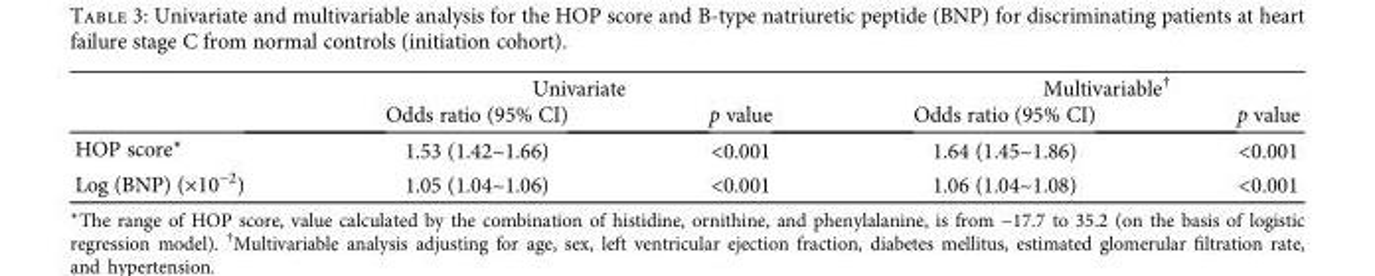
<table><thead><tr><td rowspan="2"></td><td colspan="2">Univariate</td><td colspan="2">Multivariable<sup>†</sup></td></tr><tr><td>Odds ratio (95% CI)</td><td>p value</td><td>Odds ratio (95% CI)</td><td>p value</td></tr></thead><tbody><tr><td>HOP score∗</td><td>1.53 (1.42~1.66)</td><td>&lt;0.001</td><td>1.64 (1.45~1.86)</td><td>&lt;0.001</td></tr><tr><td>Log (BNP) (×10<sup>−2</sup>)</td><td>1.05 (1.04~1.06)</td><td>&lt;0.001</td><td>1.06 (1.04~1.08)</td><td>&lt;0.001</td></tr></tbody></table>